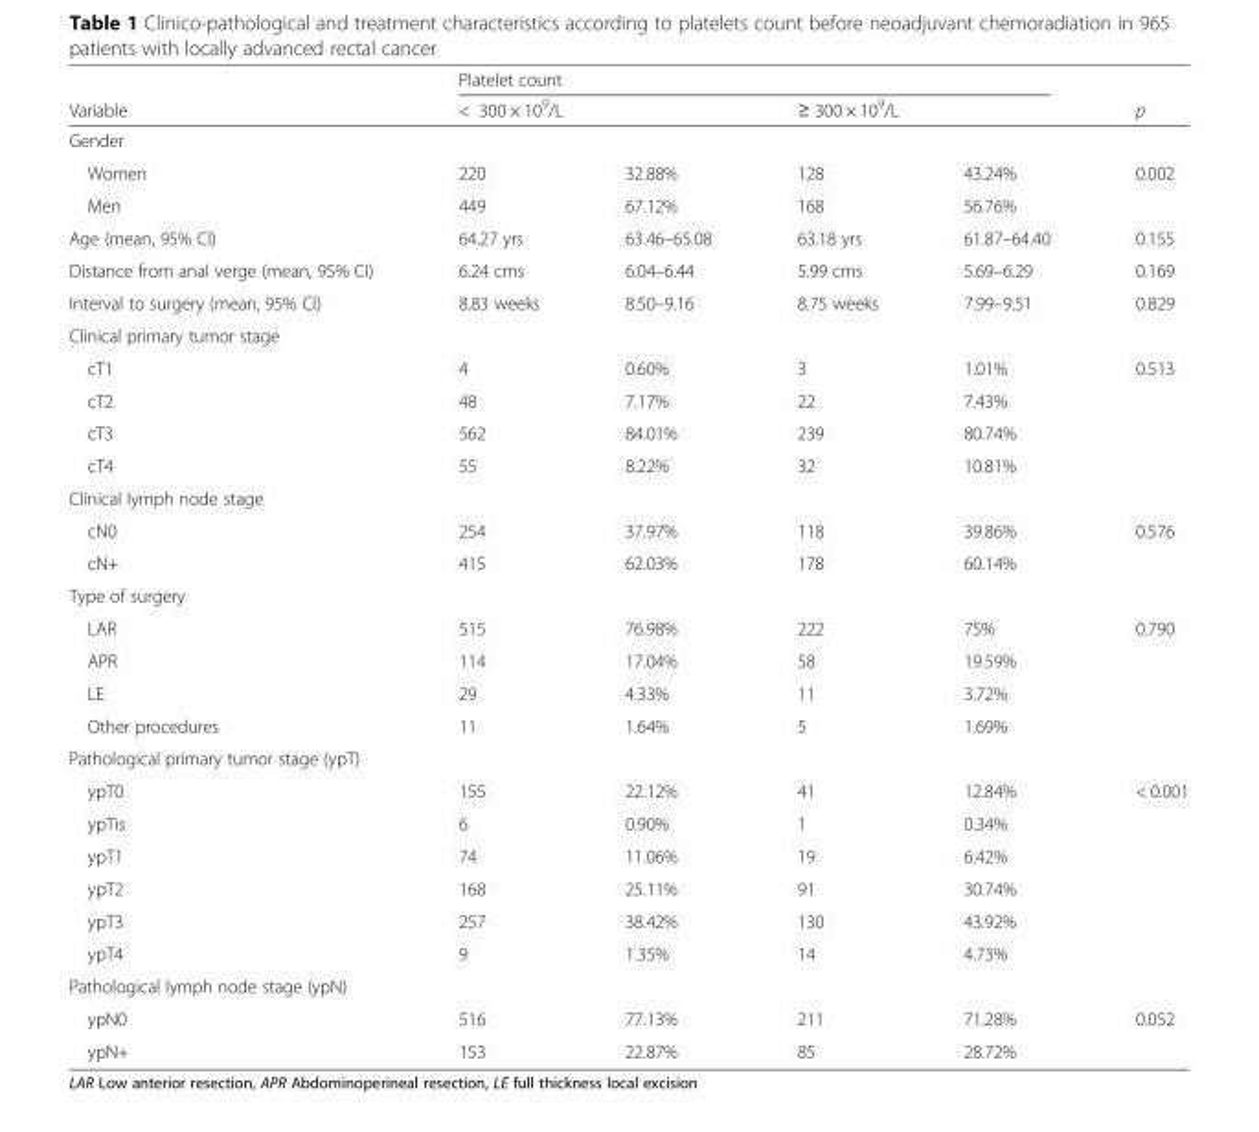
<table><thead><tr><td rowspan="2">Variable</td><td colspan="4">Platelet count</td><td rowspan="2">p</td></tr><tr><td colspan="2">&lt; 300 × 10<sup>9</sup>/L</td><td colspan="2">≥ 300 × 10<sup>9</sup>/L</td></tr><tr><td colspan="6">Gender</td></tr><tr><td>Women</td><td>220</td><td>32.88%</td><td>128</td><td>43.24%</td><td>0.002</td></tr></thead><tbody><tr><td>Men</td><td>449</td><td>67.12%</td><td>168</td><td>56.76%</td><td></td></tr><tr><td>Age (mean, 95% CI)</td><td>64.27 yrs</td><td>63.46–65.08</td><td>63.18 yrs</td><td>61.87–64.40</td><td>0.155</td></tr><tr><td>Distance from anal verge (mean, 95% CI)</td><td>6.24 cms</td><td>6.04–6.44</td><td>5.99 cms</td><td>5.69–6.29</td><td>0.169</td></tr><tr><td>Interval to surgery (mean, 95% CI)</td><td>8.83 weeks</td><td>8.50–9.16</td><td>8.75 weeks</td><td>7.99–9.51</td><td>0.829</td></tr><tr><td colspan="6">Clinical primary tumor stage</td></tr><tr><td>cT1</td><td>4</td><td>0.60%</td><td>3</td><td>1.01%</td><td>0.513</td></tr><tr><td>cT2</td><td>48</td><td>7.17%</td><td>22</td><td>7.43%</td><td></td></tr><tr><td>cT3</td><td>562</td><td>84.01%</td><td>239</td><td>80.74%</td><td></td></tr><tr><td>cT4</td><td>55</td><td>8.22%</td><td>32</td><td>10.81%</td><td></td></tr><tr><td colspan="6">Clinical lymph node stage</td></tr><tr><td>cN0</td><td>254</td><td>37.97%</td><td>118</td><td>39.86%</td><td>0.576</td></tr><tr><td>cN+</td><td>415</td><td>62.03%</td><td>178</td><td>60.14%</td><td></td></tr><tr><td colspan="6">Type of surgery</td></tr><tr><td>LAR</td><td>515</td><td>76.98%</td><td>222</td><td>75%</td><td>0.790</td></tr><tr><td>APR</td><td>114</td><td>17.04%</td><td>58</td><td>19.59%</td><td></td></tr><tr><td>LE</td><td>29</td><td>4.33%</td><td>11</td><td>3.72%</td><td></td></tr><tr><td>Other procedures</td><td>11</td><td>1.64%</td><td>5</td><td>1.69%</td><td></td></tr><tr><td colspan="6">Pathological primary tumor stage (ypT)</td></tr><tr><td>ypT0</td><td>155</td><td>22.12%</td><td>41</td><td>12.84%</td><td>&lt; 0.001</td></tr><tr><td>ypTis</td><td>6</td><td>0.90%</td><td>1</td><td>0.34%</td><td></td></tr><tr><td>ypT1</td><td>74</td><td>11.06%</td><td>19</td><td>6.42%</td><td></td></tr><tr><td>ypT2</td><td>168</td><td>25.11%</td><td>91</td><td>30.74%</td><td></td></tr><tr><td>ypT3</td><td>257</td><td>38.42%</td><td>130</td><td>43.92%</td><td></td></tr><tr><td>ypT4</td><td>9</td><td>1.35%</td><td>14</td><td>4.73%</td><td></td></tr><tr><td colspan="6">Pathological lymph node stage (ypN)</td></tr><tr><td>ypN0</td><td>516</td><td>77.13%</td><td>211</td><td>71.28%</td><td>0.052</td></tr><tr><td>ypN+</td><td>153</td><td>22.87%</td><td>85</td><td>28.72%</td><td></td></tr></tbody></table>